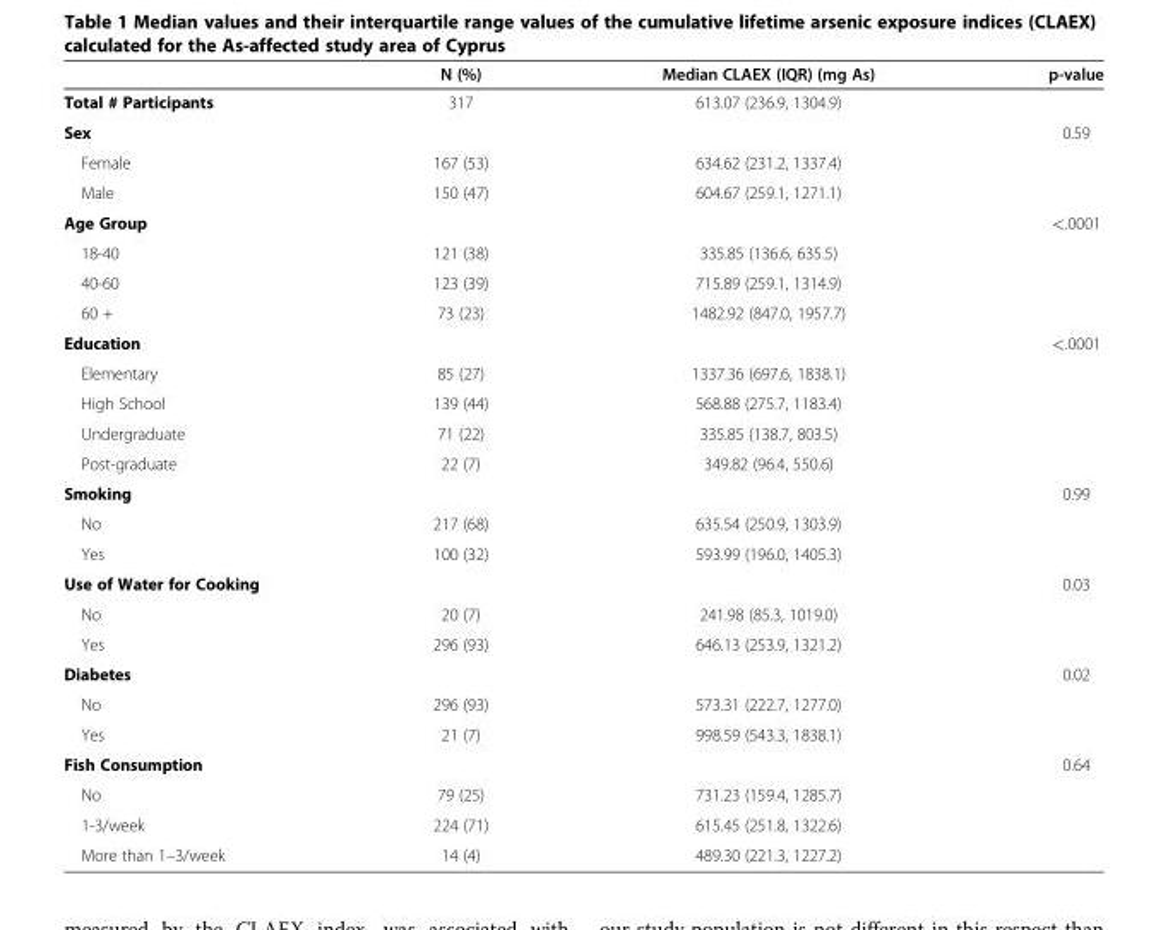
<table><thead><tr><td></td><td>N (%)</td><td>Median CLAEX (IQR) (mg As)</td><td>p-value</td></tr></thead><tbody><tr><td>Total # Participants</td><td>317</td><td>613.07 (236.9, 1304.9)</td><td></td></tr><tr><td>Sex</td><td></td><td></td><td>0.59</td></tr><tr><td>Female</td><td>167 (53)</td><td>634.62 (231.2, 1337.4)</td><td></td></tr><tr><td>Male</td><td>150 (47)</td><td>604.67 (259.1, 1271.1)</td><td></td></tr><tr><td>Age Group</td><td></td><td></td><td>&lt;.0001</td></tr><tr><td>18-40</td><td>121 (38)</td><td>335.85 (136.6, 635.5)</td><td></td></tr><tr><td>40-60</td><td>123 (39)</td><td>715.89 (259.1, 1314.9)</td><td></td></tr><tr><td>60 +</td><td>73 (23)</td><td>1482.92 (847.0, 1957.7)</td><td></td></tr><tr><td>Education</td><td></td><td></td><td>&lt;.0001</td></tr><tr><td>Elementary</td><td>85 (27)</td><td>1337.36 (697.6, 1838.1)</td><td></td></tr><tr><td>High School</td><td>139 (44)</td><td>568.88 (275.7, 1183.4)</td><td></td></tr><tr><td>Undergraduate</td><td>71 (22)</td><td>335.85 (138.7, 803.5)</td><td></td></tr><tr><td>Post-graduate</td><td>22 (7)</td><td>349.82 (96.4, 550.6)</td><td></td></tr><tr><td>Smoking</td><td></td><td></td><td>0.99</td></tr><tr><td>No</td><td>217 (68)</td><td>635.54 (250.9, 1303.9)</td><td></td></tr><tr><td>Yes</td><td>100 (32)</td><td>593.99 (196.0, 1405.3)</td><td></td></tr><tr><td>Use of Water for Cooking</td><td></td><td></td><td>0.03</td></tr><tr><td>No</td><td>20 (7)</td><td>241.98 (85.3, 1019.0)</td><td></td></tr><tr><td>Yes</td><td>296 (93)</td><td>646.13 (253.9, 1321.2)</td><td></td></tr><tr><td>Diabetes</td><td></td><td></td><td>0.02</td></tr><tr><td>No</td><td>296 (93)</td><td>573.31 (222.7, 1277.0)</td><td></td></tr><tr><td>Yes</td><td>21 (7)</td><td>998.59 (543.3, 1838.1)</td><td></td></tr><tr><td>Fish Consumption</td><td></td><td></td><td>0.64</td></tr><tr><td>No</td><td>79 (25)</td><td>731.23 (159.4, 1285.7)</td><td></td></tr><tr><td>1-3/week</td><td>224 (71)</td><td>615.45 (251.8, 1322.6)</td><td></td></tr><tr><td>More than 1–3/week</td><td>14 (4)</td><td>489.30 (221.3, 1227.2)</td><td></td></tr></tbody></table>